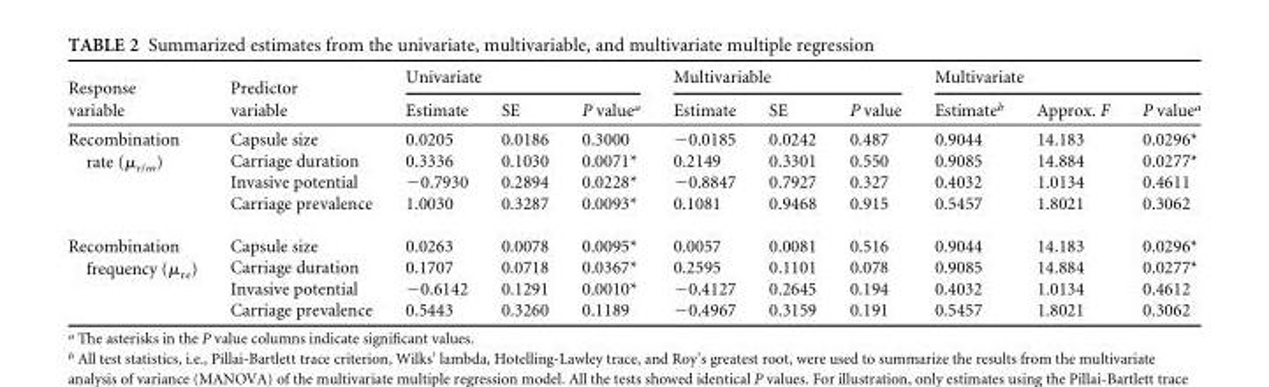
<table><thead><tr><td rowspan="2">Response variable</td><td rowspan="2">Predictor variable</td><td colspan="3">Univariate</td><td colspan="3">Multivariable</td><td colspan="3">Multivariate</td></tr><tr><td>Estimate</td><td>SE</td><td>P value<sup>a</sup></td><td>Estimate</td><td>SE</td><td>P value</td><td>Estimate<sup>b</sup></td><td>Approx. F</td><td>P value<sup>a</sup></td></tr></thead><tbody><tr><td rowspan="4">Recombination rate (μ<sub>r/m</sub>)</td><td>Capsule size</td><td>0.0205</td><td>0.0186</td><td>0.3000</td><td>−0.0185</td><td>0.0242</td><td>0.487</td><td>0.9044</td><td>14.183</td><td>0.0296*</td></tr><tr><td>Carriage duration</td><td>0.3336</td><td>0.1030</td><td>0.0071*</td><td>0.2149</td><td>0.3301</td><td>0.550</td><td>0.9085</td><td>14.884</td><td>0.0277*</td></tr><tr><td>Invasive potential</td><td>−0.7930</td><td>0.2894</td><td>0.0228*</td><td>−0.8847</td><td>0.7927</td><td>0.327</td><td>0.4032</td><td>1.0134</td><td>0.4611</td></tr><tr><td>Carriage prevalence</td><td>1.0030</td><td>0.3287</td><td>0.0093*</td><td>0.1081</td><td>0.9468</td><td>0.915</td><td>0.5457</td><td>1.8021</td><td>0.3062</td></tr><tr><td rowspan="4">Recombination frequency (μ<sub>re</sub>)</td><td>Capsule size</td><td>0.0263</td><td>0.0078</td><td>0.0095*</td><td>0.0057</td><td>0.0081</td><td>0.516</td><td>0.9044</td><td>14.183</td><td>0.0296*</td></tr><tr><td>Carriage duration</td><td>0.1707</td><td>0.0718</td><td>0.0367*</td><td>0.2595</td><td>0.1101</td><td>0.078</td><td>0.9085</td><td>14.884</td><td>0.0277*</td></tr><tr><td>Invasive potential</td><td>−0.6142</td><td>0.1291</td><td>0.0010*</td><td>−0.4127</td><td>0.2645</td><td>0.194</td><td>0.4032</td><td>1.0134</td><td>0.4612</td></tr><tr><td>Carriage prevalence</td><td>0.5443</td><td>0.3260</td><td>0.1189</td><td>−0.4967</td><td>0.3159</td><td>0.191</td><td>0.5457</td><td>1.8021</td><td>0.3062</td></tr></tbody></table>